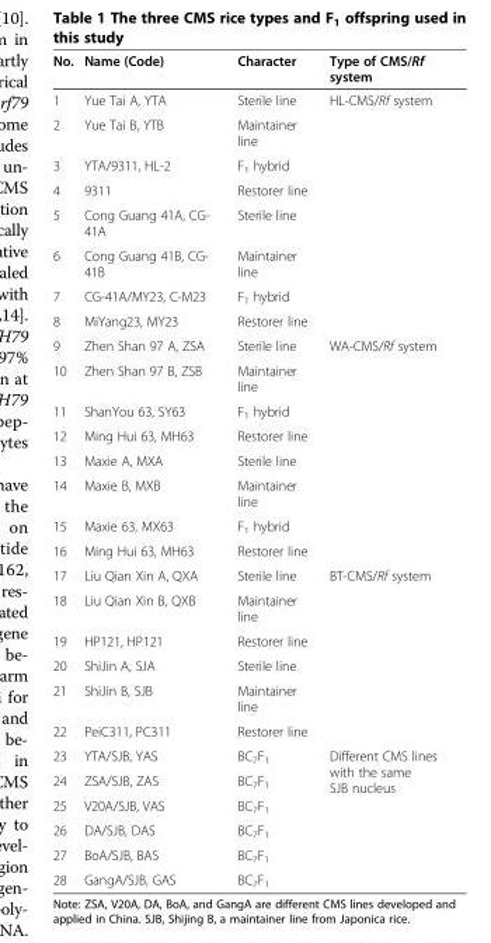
<table><thead><tr><td>No.</td><td>Name (Code)</td><td>Character</td><td>Type of CMS/Rf system</td></tr></thead><tbody><tr><td>1</td><td>Yue Tai A, YTA</td><td>Sterile line</td><td rowspan="8">HL-CMS/Rf system</td></tr><tr><td>2</td><td>Yue Tai B, YTB</td><td>Maintainer line</td></tr><tr><td>3</td><td>YTA/9311, HL-2</td><td>F<sub>1</sub> hybrid</td></tr><tr><td>4</td><td>9311</td><td>Restorer line</td></tr><tr><td>5</td><td>Cong Guang 41A, CG- 41A</td><td>Sterile line</td></tr><tr><td>6</td><td>Cong Guang 41B, CG- 41B</td><td>Maintainer line</td></tr><tr><td>7</td><td>CG-41A/MY23, C-M23</td><td>F<sub>1</sub> hybrid</td></tr><tr><td>8</td><td>MiYang23, MY23</td><td>Restorer line</td></tr><tr><td>9</td><td>Zhen Shan 97 A, ZSA</td><td>Sterile line</td><td rowspan="8">WA-CMS/Rf system</td></tr><tr><td>10</td><td>Zhen Shan 97 B, ZSB</td><td>Maintainer line</td></tr><tr><td>11</td><td>ShanYou 63, SY63</td><td>F<sub>1</sub> hybrid</td></tr><tr><td>12</td><td>Ming Hui 63, MH63</td><td>Restorer line</td></tr><tr><td>13</td><td>Maxie A, MXA</td><td>Sterile line</td></tr><tr><td>14</td><td>Maxie B, MXB</td><td>Maintainer line</td></tr><tr><td>15</td><td>Maxie 63, MX63</td><td>F<sub>1</sub> hybrid</td></tr><tr><td>16</td><td>Ming Hui 63, MH63</td><td>Restorer line</td></tr><tr><td>17</td><td>Liu Qian Xin A, QXA</td><td>Sterile line</td><td rowspan="6">BT-CMS/Rf system</td></tr><tr><td>18</td><td>Liu Qian Xin B, QXB</td><td>Maintainer line</td></tr><tr><td>19</td><td>HP121, HP121</td><td>Restorer line</td></tr><tr><td>20</td><td>ShiJin A, SJA</td><td>Sterile line</td></tr><tr><td>21</td><td>ShiJin B, SJB</td><td>Maintainer line</td></tr><tr><td>22</td><td>PeiC311, PC311</td><td>Restorer line</td></tr><tr><td>23</td><td>YTA/SJB, YAS</td><td>BC<sub>7</sub>F<sub>1</sub></td><td rowspan="6">Different CMS lines with the same SJB nucleus</td></tr><tr><td>24</td><td>ZSA/SJB, ZAS</td><td>BC<sub>7</sub>F<sub>1</sub></td></tr><tr><td>25</td><td>V20A/SJB, VAS</td><td>BC<sub>7</sub>F<sub>1</sub></td></tr><tr><td>26</td><td>DA/SJB, DAS</td><td>BC<sub>7</sub>F<sub>1</sub></td></tr><tr><td>27</td><td>BoA/SJB, BAS</td><td>BC<sub>7</sub>F<sub>1</sub></td></tr><tr><td>28</td><td>GangA/SJB, GAS</td><td>BC<sub>7</sub>F<sub>1</sub></td></tr></tbody></table>